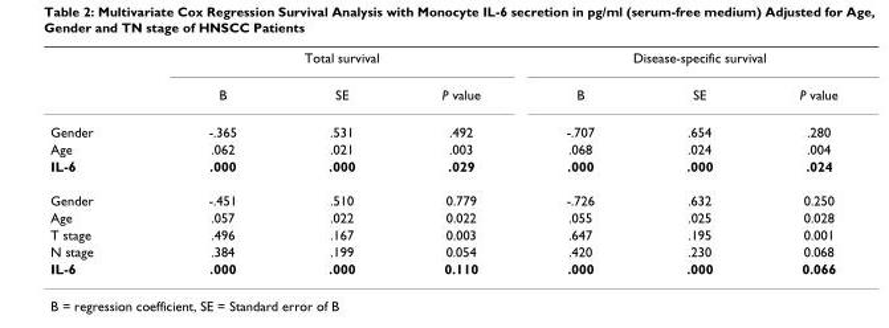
<table><thead><tr><td rowspan="2"></td><td colspan="3">Total survival</td><td colspan="3">Disease-specific survival</td></tr><tr><td>B</td><td>SE</td><td>P value</td><td>B</td><td>SE</td><td>P value</td></tr></thead><tbody><tr><td>Gender</td><td>-.365</td><td>.531</td><td>.492</td><td>-.707</td><td>.654</td><td>.280</td></tr><tr><td>Age</td><td>.062</td><td>.021</td><td>.003</td><td>.068</td><td>.024</td><td>.004</td></tr><tr><td>IL-6</td><td>.000</td><td>.000</td><td>.029</td><td>.000</td><td>.000</td><td>.024</td></tr><tr><td>Gender</td><td>-.451</td><td>.510</td><td>0.779</td><td>-.726</td><td>.632</td><td>0.250</td></tr><tr><td>Age</td><td>.057</td><td>.022</td><td>0.022</td><td>.055</td><td>.025</td><td>0.028</td></tr><tr><td>T stage</td><td>.496</td><td>.167</td><td>0.003</td><td>.647</td><td>.195</td><td>0.001</td></tr><tr><td>N stage</td><td>.384</td><td>.199</td><td>0.054</td><td>.420</td><td>.230</td><td>0.068</td></tr><tr><td>IL-6</td><td>.000</td><td>.000</td><td>0.110</td><td>.000</td><td>.000</td><td>0.066</td></tr></tbody></table>